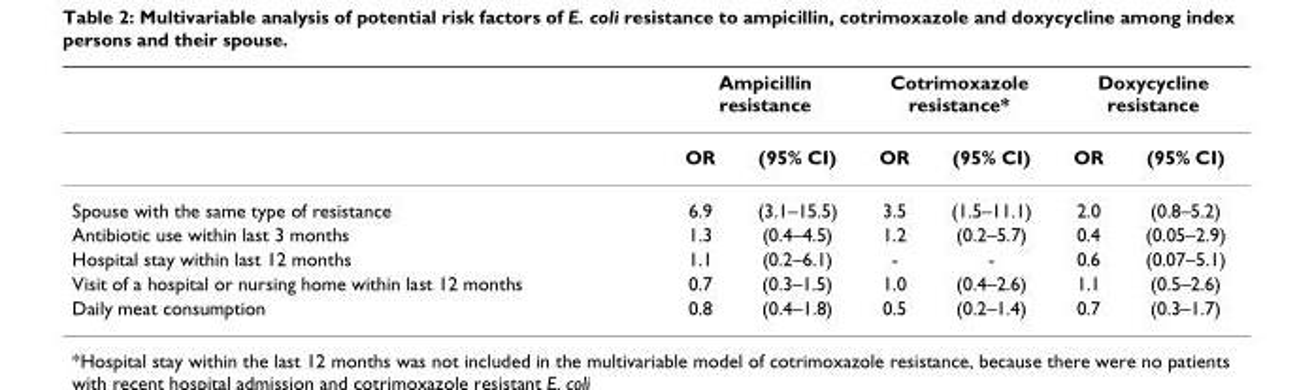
<table><thead><tr><td rowspan="2"></td><td colspan="2">Ampicillin resistance</td><td colspan="2">Cotrimoxazole resistance*</td><td colspan="2">Doxycycline resistance</td></tr><tr><td>OR</td><td>(95% CI)</td><td>OR</td><td>(95% CI)</td><td>OR</td><td>(95% CI)</td></tr></thead><tbody><tr><td>Spouse with the same type of resistance</td><td>6.9</td><td>(3.1–15.5)</td><td>3.5</td><td>(1.5–11.1)</td><td>2.0</td><td>(0.8–5.2)</td></tr><tr><td>Antibiotic use within last 3 months</td><td>1.3</td><td>(0.4–4.5)</td><td>1.2</td><td>(0.2–5.7)</td><td>0.4</td><td>(0.05–2.9)</td></tr><tr><td>Hospital stay within last 12 months</td><td>1.1</td><td>(0.2–6.1)</td><td>-</td><td>-</td><td>0.6</td><td>(0.07–5.1)</td></tr><tr><td>Visit of a hospital or nursing home within last 12 months</td><td>0.7</td><td>(0.3–1.5)</td><td>1.0</td><td>(0.4–2.6)</td><td>1.1</td><td>(0.5–2.6)</td></tr><tr><td>Daily meat consumption</td><td>0.8</td><td>(0.4–1.8)</td><td>0.5</td><td>(0.2–1.4)</td><td>0.7</td><td>(0.3–1.7)</td></tr></tbody></table>